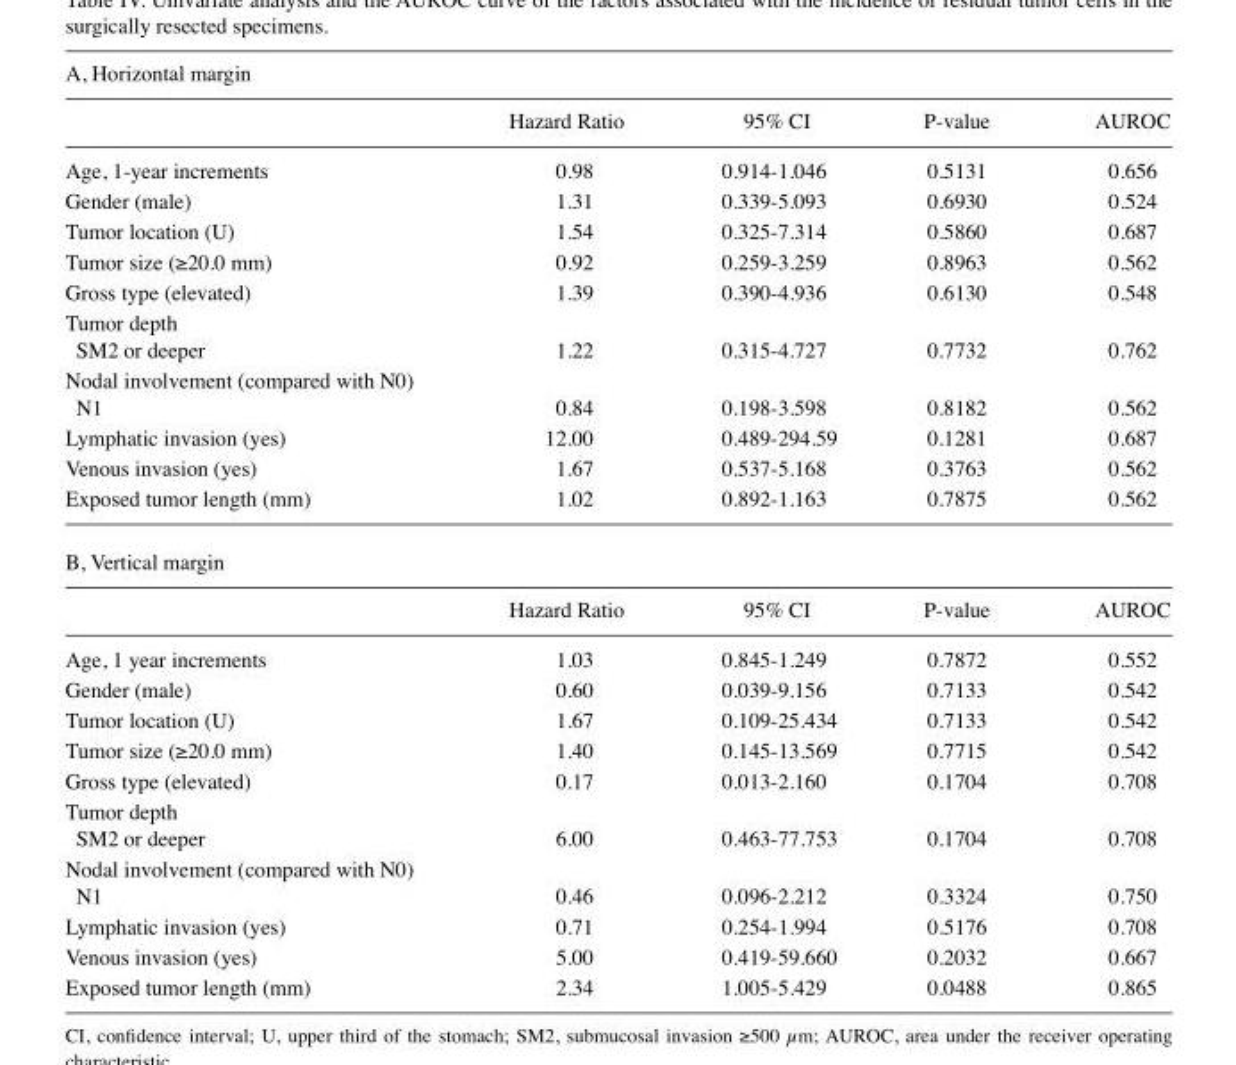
<table><tbody><tr><td colspan="5">A, Horizontal margin</td></tr><tr><td></td><td>Hazard Ratio</td><td>95% CI</td><td>P-value</td><td>AUROC</td></tr><tr><td>Age, 1-year increments</td><td>0.98</td><td>0.914-1.046</td><td>0.5131</td><td>0.656</td></tr><tr><td>Gender (male)</td><td>1.31</td><td>0.339-5.093</td><td>0.6930</td><td>0.524</td></tr><tr><td>Tumor location (U)</td><td>1.54</td><td>0.325-7.314</td><td>0.5860</td><td>0.687</td></tr><tr><td>Tumor size (≥20.0 mm)</td><td>0.92</td><td>0.259-3.259</td><td>0.8963</td><td>0.562</td></tr><tr><td>Gross type (elevated)</td><td>1.39</td><td>0.390-4.936</td><td>0.6130</td><td>0.548</td></tr><tr><td colspan="5">Tumor depth</td></tr><tr><td>SM2 or deeper</td><td>1.22</td><td>0.315-4.727</td><td>0.7732</td><td>0.762</td></tr><tr><td colspan="5">Nodal involvement (compared with N0)</td></tr><tr><td>N1</td><td>0.84</td><td>0.198-3.598</td><td>0.8182</td><td>0.562</td></tr><tr><td>Lymphatic invasion (yes)</td><td>12.00</td><td>0.489-294.59</td><td>0.1281</td><td>0.687</td></tr><tr><td>Venous invasion (yes)</td><td>1.67</td><td>0.537-5.168</td><td>0.3763</td><td>0.562</td></tr><tr><td>Exposed tumor length (mm)</td><td>1.02</td><td>0.892-1.163</td><td>0.7875</td><td>0.562</td></tr><tr><td colspan="5">B, Vertical margin</td></tr><tr><td></td><td>Hazard Ratio</td><td>95% CI</td><td>P-value</td><td>AUROC</td></tr><tr><td>Age, 1 year increments</td><td>1.03</td><td>0.845-1.249</td><td>0.7872</td><td>0.552</td></tr><tr><td>Gender (male)</td><td>0.60</td><td>0.039-9.156</td><td>0.7133</td><td>0.542</td></tr><tr><td>Tumor location (U)</td><td>1.67</td><td>0.109-25.434</td><td>0.7133</td><td>0.542</td></tr><tr><td>Tumor size (≥20.0 mm)</td><td>1.40</td><td>0.145-13.569</td><td>0.7715</td><td>0.542</td></tr><tr><td>Gross type (elevated)</td><td>0.17</td><td>0.013-2.160</td><td>0.1704</td><td>0.708</td></tr><tr><td colspan="5">Tumor depth</td></tr><tr><td>SM2 or deeper</td><td>6.00</td><td>0.463-77.753</td><td>0.1704</td><td>0.708</td></tr><tr><td colspan="5">Nodal involvement (compared with N0)</td></tr><tr><td>N1</td><td>0.46</td><td>0.096-2.212</td><td>0.3324</td><td>0.750</td></tr><tr><td>Lymphatic invasion (yes)</td><td>0.71</td><td>0.254-1.994</td><td>0.5176</td><td>0.708</td></tr><tr><td>Venous invasion (yes)</td><td>5.00</td><td>0.419-59.660</td><td>0.2032</td><td>0.667</td></tr><tr><td>Exposed tumor length (mm)</td><td>2.34</td><td>1.005-5.429</td><td>0.0488</td><td>0.865</td></tr></tbody></table>